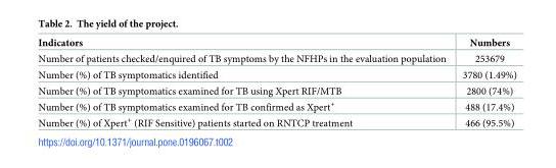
<table><thead><tr><td>Indicators</td><td>Numbers</td></tr></thead><tbody><tr><td>Number of patients checked/enquired of TB symptoms by the NFHPs in the evaluation population</td><td>253679</td></tr><tr><td>Number (%) of TB symptomatics identified</td><td>3780 (1.49%)</td></tr><tr><td>Number (%) of TB symptomatics examined for TB using Xpert RIF/MTB</td><td>2800 (74%)</td></tr><tr><td>Number (%) of TB symptomatics examined for TB confirmed as Xpert<sup>+</sup></td><td>488 (17.4%)</td></tr><tr><td>Number (%) of Xpert<sup>+</sup> (RIF Sensitive) patients started on RNTCP treatment</td><td>466 (95.5%)</td></tr></tbody></table>